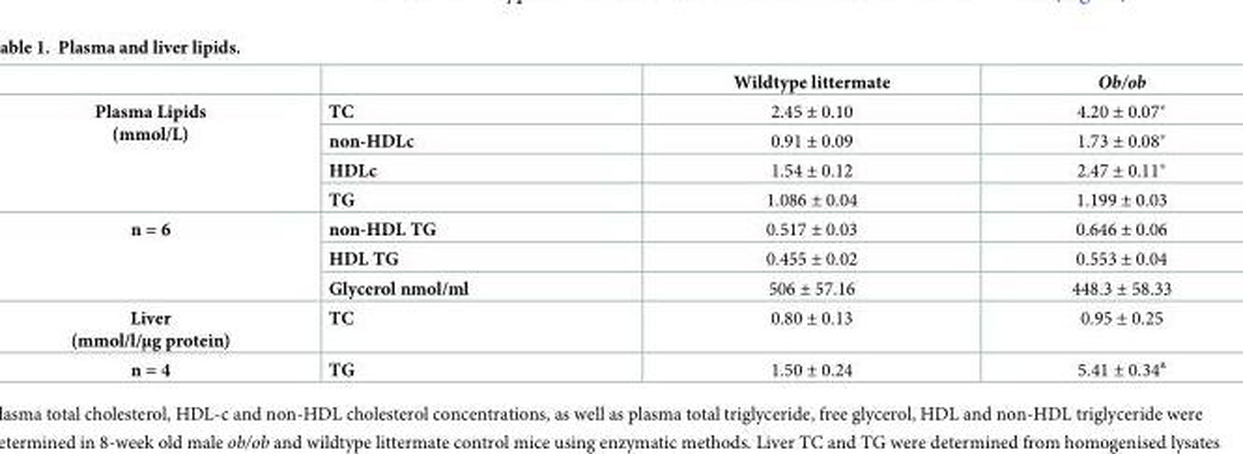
<table><thead><tr><td></td><td></td><td>Wildtype littermate</td><td>Ob/ob</td></tr></thead><tbody><tr><td rowspan="4">Plasma Lipids (mmol/L)</td><td>TC</td><td>2.45 ± 0.10</td><td>4.20 ± 0.07*</td></tr><tr><td>non-HDLc</td><td>0.91 ± 0.09</td><td>1.73 ± 0.08*</td></tr><tr><td>HDLc</td><td>1.54 ± 0.12</td><td>2.47 ± 0.11*</td></tr><tr><td>TG</td><td>1.086 ± 0.04</td><td>1.199 ± 0.03</td></tr><tr><td rowspan="3">n = 6</td><td>non-HDL TG</td><td>0.517 ± 0.03</td><td>0.646 ± 0.06</td></tr><tr><td>HDL TG</td><td>0.455 ± 0.02</td><td>0.553 ± 0.04</td></tr><tr><td>Glycerol nmol/ml</td><td>506 ± 57.16</td><td>448.3 ± 58.33</td></tr><tr><td>Liver (mmol/l/μg protein)</td><td>TC</td><td>0.80 ± 0.13</td><td>0.95 ± 0.25</td></tr><tr><td>n = 4</td><td>TG</td><td>1.50 ± 0.24</td><td>5.41 ± 0.34<sup>a</sup></td></tr></tbody></table>